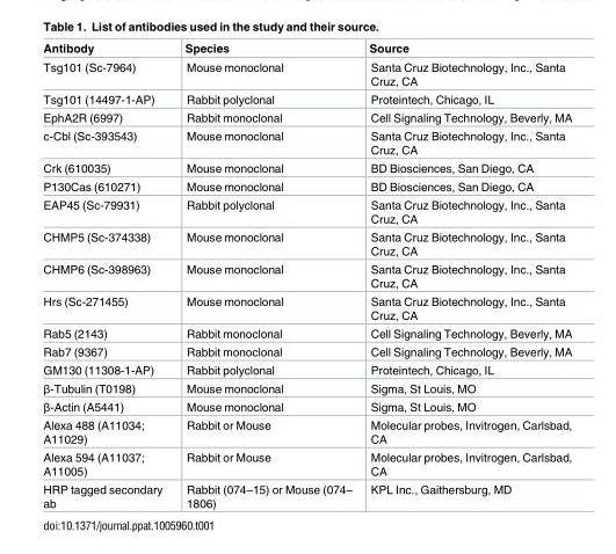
<table><thead><tr><td>Antibody</td><td>Species</td><td>Source</td></tr></thead><tbody><tr><td>Tsg101 (Sc-7964)</td><td>Mouse monoclonal</td><td>Santa Cruz Biotechnology, Inc., Santa Cruz, CA</td></tr><tr><td>Tsg101 (14497-1-AP)</td><td>Rabbit polyclonal</td><td>Proteintech, Chicago, IL</td></tr><tr><td>EphA2R (6997)</td><td>Rabbit monoclonal</td><td>Cell Signaling Technology, Beverly, MA</td></tr><tr><td>c-Cbl (Sc-393543)</td><td>Mouse monoclonal</td><td>Santa Cruz Biotechnology, Inc., Santa Cruz, CA</td></tr><tr><td>Crk (610035)</td><td>Mouse monoclonal</td><td>BD Biosciences, San Diego, CA</td></tr><tr><td>P130Cas (610271)</td><td>Mouse monoclonal</td><td>BD Biosciences, San Diego, CA</td></tr><tr><td>EAP45 (Sc-79931)</td><td>Rabbit polyclonal</td><td>Santa Cruz Biotechnology, Inc., Santa Cruz, CA</td></tr><tr><td>CHMP5 (Sc-374338)</td><td>Mouse monoclonal</td><td>Santa Cruz Biotechnology, Inc., Santa Cruz, CA</td></tr><tr><td>CHMP6 (Sc-398963)</td><td>Mouse monoclonal</td><td>Santa Cruz Biotechnology, Inc., Santa Cruz, CA</td></tr><tr><td>Hrs (Sc-271455)</td><td>Mouse monoclonal</td><td>Santa Cruz Biotechnology, Inc., Santa Cruz, CA</td></tr><tr><td>Rab5 (2143)</td><td>Rabbit monoclonal</td><td>Cell Signaling Technology, Beverly, MA</td></tr><tr><td>Rab7 (9367)</td><td>Rabbit monoclonal</td><td>Cell Signaling Technology, Beverly, MA</td></tr><tr><td>GM130 (11308-1-AP)</td><td>Rabbit polyclonal</td><td>Proteintech, Chicago, IL</td></tr><tr><td>β-Tubulin (T0198)</td><td>Mouse monoclonal</td><td>Sigma, St Louis, MO</td></tr><tr><td>β-Actin (A5441)</td><td>Mouse monoclonal</td><td>Sigma, St Louis, MO</td></tr><tr><td>Alexa 488 (A11034; A11029)</td><td>Rabbit or Mouse</td><td>Molecular probes, Invitrogen, Carlsbad, CA</td></tr><tr><td>Alexa 594 (A11037; A11005)</td><td>Rabbit or Mouse</td><td>Molecular probes, Invitrogen, Carlsbad, CA</td></tr><tr><td>HRP tagged secondary ab</td><td>Rabbit (074–15) or Mouse (074– 1806)</td><td>KPL Inc., Gaithersburg, MD</td></tr></tbody></table>